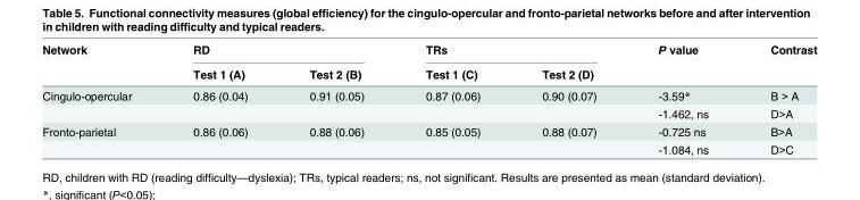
<table><thead><tr><td rowspan="2">Network</td><td colspan="2">RD</td><td colspan="2">TRs</td><td rowspan="2">P value</td><td rowspan="2">Contrast</td></tr><tr><td>Test 1 (A)</td><td>Test 2 (B)</td><td>Test 1 (C)</td><td>Test 2 (D)</td></tr></thead><tbody><tr><td rowspan="2">Cingulo-opercular</td><td>0.86 (0.04)</td><td>0.91 (0.05)</td><td>0.87 (0.06)</td><td>0.90 (0.07)</td><td>-3.59*</td><td>B &gt; A</td></tr><tr><td></td><td></td><td></td><td></td><td>-1.462, ns</td><td>D&gt;A</td></tr><tr><td rowspan="2">Fronto-parietal</td><td>0.86 (0.06)</td><td>0.88 (0.06)</td><td>0.85 (0.05)</td><td>0.88 (0.07)</td><td>-0.725 ns</td><td>B&gt;A</td></tr><tr><td></td><td></td><td></td><td></td><td>-1.084, ns</td><td>D&gt;C</td></tr></tbody></table>